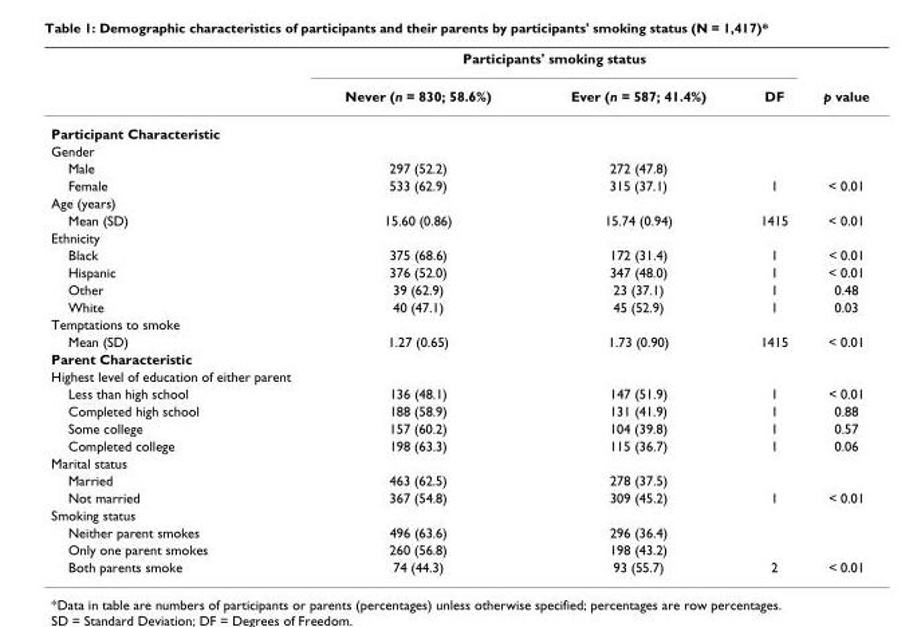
<table><thead><tr><td rowspan="2"></td><td colspan="3">Participants&#x27; smoking status</td><td rowspan="2">p value</td></tr><tr><td>Never (n = 830; 58.6%)</td><td>Ever (n = 587; 41.4%)</td><td>DF</td></tr></thead><tbody><tr><td colspan="5">Participant Characteristic</td></tr><tr><td colspan="5">Gender</td></tr><tr><td>Male</td><td>297 (52.2)</td><td>272 (47.8)</td><td></td><td></td></tr><tr><td>Female</td><td>533 (62.9)</td><td>315 (37.1)</td><td>1</td><td>&lt; 0.01</td></tr><tr><td colspan="5">Age (years)</td></tr><tr><td>Mean (SD)</td><td>15.60 (0.86)</td><td>15.74 (0.94)</td><td>1415</td><td>&lt; 0.01</td></tr><tr><td colspan="5">Ethnicity</td></tr><tr><td>Black</td><td>375 (68.6)</td><td>172 (31.4)</td><td>1</td><td>&lt; 0.01</td></tr><tr><td>Hispanic</td><td>376 (52.0)</td><td>347 (48.0)</td><td>1</td><td>&lt; 0.01</td></tr><tr><td>Other</td><td>39 (62.9)</td><td>23 (37.1)</td><td>1</td><td>0.48</td></tr><tr><td>White</td><td>40 (47.1)</td><td>45 (52.9)</td><td>1</td><td>0.03</td></tr><tr><td colspan="5">Temptations to smoke</td></tr><tr><td>Mean (SD)</td><td>1.27 (0.65)</td><td>1.73 (0.90)</td><td>1415</td><td>&lt; 0.01</td></tr><tr><td colspan="5">Parent Characteristic</td></tr><tr><td colspan="5">Highest level of education of either parent</td></tr><tr><td>Less than high school</td><td>136 (48.1)</td><td>147 (51.9)</td><td>1</td><td>&lt; 0.01</td></tr><tr><td>Completed high school</td><td>188 (58.9)</td><td>131 (41.9)</td><td>1</td><td>0.88</td></tr><tr><td>Some college</td><td>157 (60.2)</td><td>104 (39.8)</td><td>1</td><td>0.57</td></tr><tr><td>Completed college</td><td>198 (63.3)</td><td>115 (36.7)</td><td>1</td><td>0.06</td></tr><tr><td colspan="5">Marital status</td></tr><tr><td>Married</td><td>463 (62.5)</td><td>278 (37.5)</td><td></td><td></td></tr><tr><td>Not married</td><td>367 (54.8)</td><td>309 (45.2)</td><td>1</td><td>&lt; 0.01</td></tr><tr><td colspan="5">Smoking status</td></tr><tr><td>Neither parent smokes</td><td>496 (63.6)</td><td>296 (36.4)</td><td></td><td></td></tr><tr><td>Only one parent smokes</td><td>260 (56.8)</td><td>198 (43.2)</td><td></td><td></td></tr><tr><td>Both parents smoke</td><td>74 (44.3)</td><td>93 (55.7)</td><td>2</td><td>&lt; 0.01</td></tr></tbody></table>